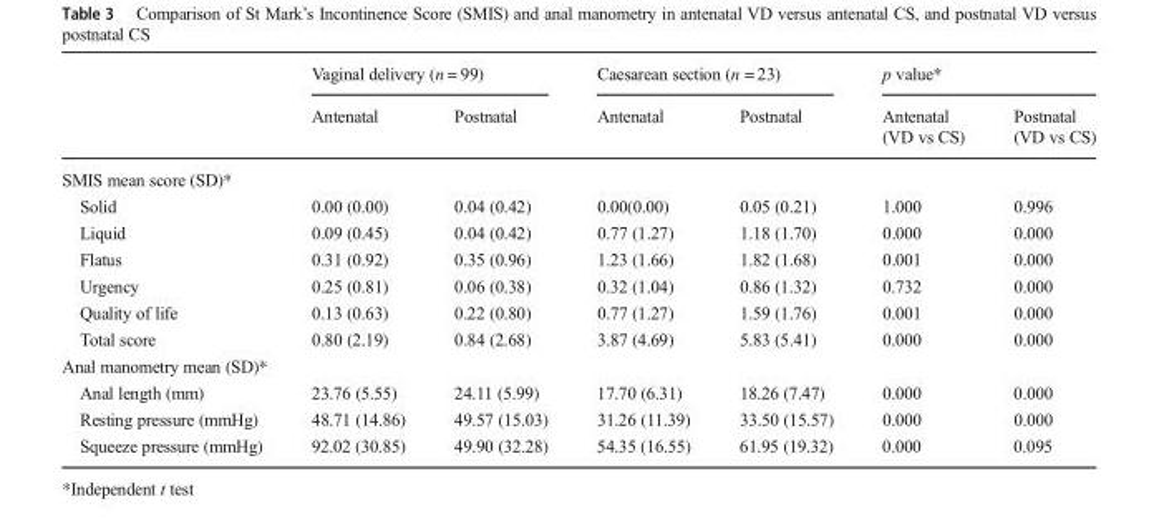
<table><thead><tr><td rowspan="2"></td><td colspan="2">Vaginal delivery (n = 99)</td><td colspan="2">Caesarean section (n = 23)</td><td colspan="2">p value*</td></tr><tr><td>Antenatal</td><td>Postnatal</td><td>Antenatal</td><td>Postnatal</td><td>Antenatal (VD vs CS)</td><td>Postnatal (VD vs CS)</td></tr></thead><tbody><tr><td colspan="7">SMIS mean score (SD)*</td></tr><tr><td>Solid</td><td>0.00 (0.00)</td><td>0.04 (0.42)</td><td>0.00(0.00)</td><td>0.05 (0.21)</td><td>1.000</td><td>0.996</td></tr><tr><td>Liquid</td><td>0.09 (0.45)</td><td>0.04 (0.42)</td><td>0.77 (1.27)</td><td>1.18 (1.70)</td><td>0.000</td><td>0.000</td></tr><tr><td>Flatus</td><td>0.31 (0.92)</td><td>0.35 (0.96)</td><td>1.23 (1.66)</td><td>1.82 (1.68)</td><td>0.001</td><td>0.000</td></tr><tr><td>Urgency</td><td>0.25 (0.81)</td><td>0.06 (0.38)</td><td>0.32 (1.04)</td><td>0.86 (1.32)</td><td>0.732</td><td>0.000</td></tr><tr><td>Quality of life</td><td>0.13 (0.63)</td><td>0.22 (0.80)</td><td>0.77 (1.27)</td><td>1.59 (1.76)</td><td>0.001</td><td>0.000</td></tr><tr><td>Total score</td><td>0.80 (2.19)</td><td>0.84 (2.68)</td><td>3.87 (4.69)</td><td>5.83 (5.41)</td><td>0.000</td><td>0.000</td></tr><tr><td colspan="7">Anal manometry mean (SD)*</td></tr><tr><td>Anal length (mm)</td><td>23.76 (5.55)</td><td>24.11 (5.99)</td><td>17.70 (6.31)</td><td>18.26 (7.47)</td><td>0.000</td><td>0.000</td></tr><tr><td>Resting pressure (mmHg)</td><td>48.71 (14.86)</td><td>49.57 (15.03)</td><td>31.26 (11.39)</td><td>33.50 (15.57)</td><td>0.000</td><td>0.000</td></tr><tr><td>Squeeze pressure (mmHg)</td><td>92.02 (30.85)</td><td>49.90 (32.28)</td><td>54.35 (16.55)</td><td>61.95 (19.32)</td><td>0.000</td><td>0.095</td></tr></tbody></table>